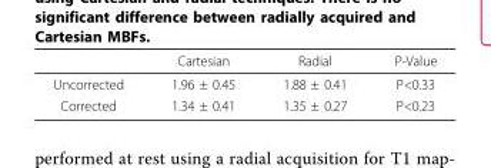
<table><thead><tr><td></td><td>Cartesian</td><td>Radial</td><td>P-Value</td></tr></thead><tbody><tr><td>Uncorrected</td><td>1.96 ± 0.45</td><td>1.88 ± 0.41</td><td>P&lt;0.33</td></tr><tr><td>Corrected</td><td>1.34 ± 0.41</td><td>1.35 ± 0.27</td><td>P&lt;0.23</td></tr></tbody></table>